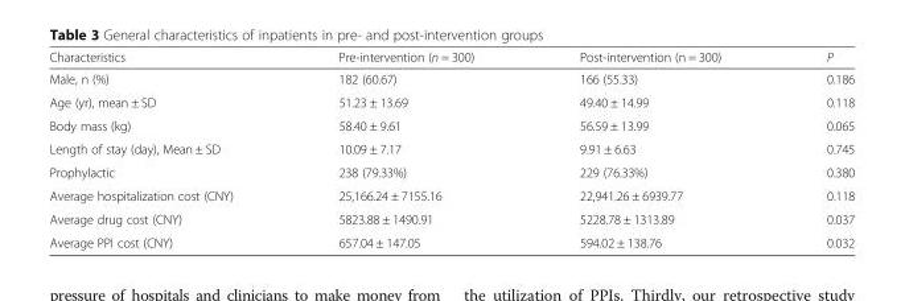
<table><thead><tr><td>Characteristics</td><td>Pre-intervention (n = 300)</td><td>Post-intervention (n = 300)</td><td>P</td></tr></thead><tbody><tr><td>Male, n (%)</td><td>182 (60.67)</td><td>166 (55.33)</td><td>0.186</td></tr><tr><td>Age (yr), mean ± SD</td><td>51.23 ± 13.69</td><td>49.40 ± 14.99</td><td>0.118</td></tr><tr><td>Body mass (kg)</td><td>58.40 ± 9.61</td><td>56.59 ± 13.99</td><td>0.065</td></tr><tr><td>Length of stay (day), Mean ± SD</td><td>10.09 ± 7.17</td><td>9.91 ± 6.63</td><td>0.745</td></tr><tr><td>Prophylactic</td><td>238 (79.33%)</td><td>229 (76.33%)</td><td>0.380</td></tr><tr><td>Average hospitalization cost (CNY)</td><td>25,166.24 ± 7155.16</td><td>22,941.26 ± 6939.77</td><td>0.118</td></tr><tr><td>Average drug cost (CNY)</td><td>5823.88 ± 1490.91</td><td>5228.78 ± 1313.89</td><td>0.037</td></tr><tr><td>Average PPI cost (CNY)</td><td>657.04 ± 147.05</td><td>594.02 ± 138.76</td><td>0.032</td></tr></tbody></table>